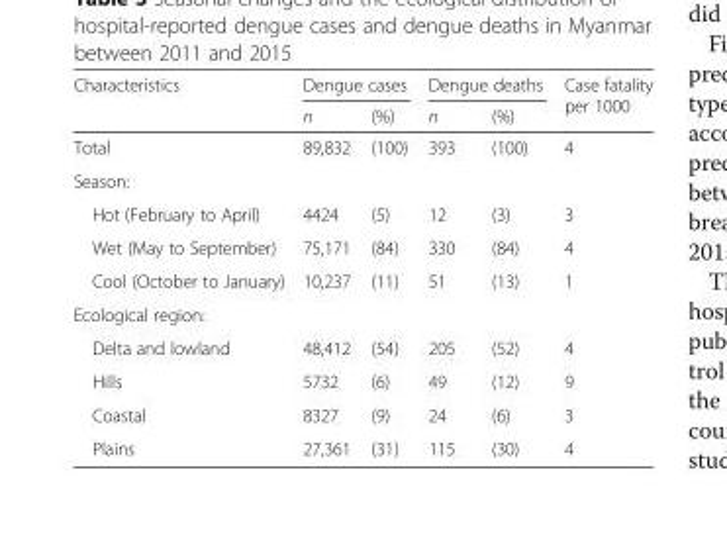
<table><thead><tr><td rowspan="2">Characteristics</td><td colspan="2">Dengue cases</td><td colspan="2">Dengue deaths</td><td rowspan="2">Case fatality per 1000</td></tr><tr><td>n</td><td>(%)</td><td>n</td><td>(%)</td></tr></thead><tbody><tr><td>Total</td><td>89,832</td><td>(100)</td><td>393</td><td>(100)</td><td>4</td></tr><tr><td colspan="6">Season:</td></tr><tr><td>Hot (February to April)</td><td>4424</td><td>(5)</td><td>12</td><td>(3)</td><td>3</td></tr><tr><td>Wet (May to September)</td><td>75,171</td><td>(84)</td><td>330</td><td>(84)</td><td>4</td></tr><tr><td>Cool (October to January)</td><td>10,237</td><td>(11)</td><td>51</td><td>(13)</td><td>1</td></tr><tr><td colspan="6">Ecological region:</td></tr><tr><td>Delta and lowland</td><td>48,412</td><td>(54)</td><td>205</td><td>(52)</td><td>4</td></tr><tr><td>Hills</td><td>5732</td><td>(6)</td><td>49</td><td>(12)</td><td>9</td></tr><tr><td>Coastal</td><td>8327</td><td>(9)</td><td>24</td><td>(6)</td><td>3</td></tr><tr><td>Plains</td><td>27,361</td><td>(31)</td><td>115</td><td>(30)</td><td>4</td></tr></tbody></table>